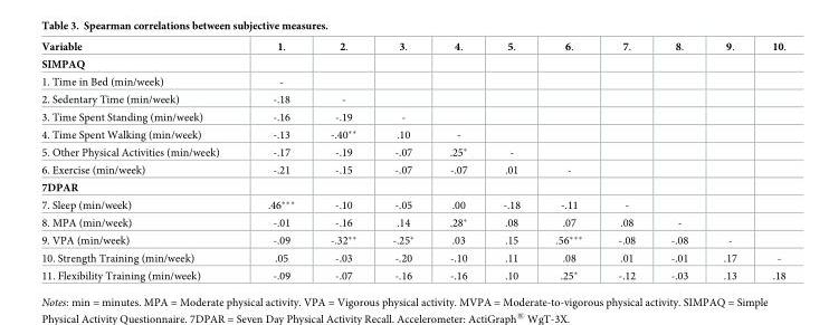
<table><tbody><tr><td>Variable</td><td>1.</td><td>2.</td><td>3.</td><td>4.</td><td>5.</td><td>6.</td><td>7.</td><td>8.</td><td>9.</td><td>10.</td></tr><tr><td colspan="11">SIMPAQ</td></tr><tr><td>1. Time in Bed (min/week)</td><td>-</td><td></td><td></td><td></td><td></td><td></td><td></td><td></td><td></td><td></td></tr><tr><td>2. Sedentary Time (min/week)</td><td>-.18</td><td>-</td><td></td><td></td><td></td><td></td><td></td><td></td><td></td><td></td></tr><tr><td>3. Time Spent Standing (min/week)</td><td>-.16</td><td>-.19</td><td>-</td><td></td><td></td><td></td><td></td><td></td><td></td><td></td></tr><tr><td>4. Time Spent Walking (min/week)</td><td>-.13</td><td>-.40**</td><td>.10</td><td>-</td><td></td><td></td><td></td><td></td><td></td><td></td></tr><tr><td>5. Other Physical Activities (min/week)</td><td>-.17</td><td>-.19</td><td>-.07</td><td>.25*</td><td>-</td><td></td><td></td><td></td><td></td><td></td></tr><tr><td>6. Exercise (min/week)</td><td>-.21</td><td>-.15</td><td>-.07</td><td>-.07</td><td>.01</td><td>-</td><td></td><td></td><td></td><td></td></tr><tr><td colspan="11">7DPAR</td></tr><tr><td>7. Sleep (min/week)</td><td>.46***</td><td>-.10</td><td>-.05</td><td>.00</td><td>-.18</td><td>-.11</td><td>-</td><td></td><td></td><td></td></tr><tr><td>8. MPA (min/week)</td><td>-.01</td><td>-.16</td><td>.14</td><td>.28*</td><td>.08</td><td>.07</td><td>.08</td><td>-</td><td></td><td></td></tr><tr><td>9. VPA (min/week)</td><td>-.09</td><td>-.32**</td><td>-.25*</td><td>.03</td><td>.15</td><td>.56***</td><td>-.08</td><td>-.08</td><td>-</td><td></td></tr><tr><td>10. Strength Training (min/week)</td><td>.05</td><td>-.03</td><td>-.20</td><td>-.10</td><td>.11</td><td>.08</td><td>.01</td><td>-.01</td><td>.17</td><td>-</td></tr><tr><td>11. Flexibility Training (min/week)</td><td>-.09</td><td>-.07</td><td>-.16</td><td>-.16</td><td>.10</td><td>.25*</td><td>-.12</td><td>-.03</td><td>.13</td><td>.18</td></tr></tbody></table>